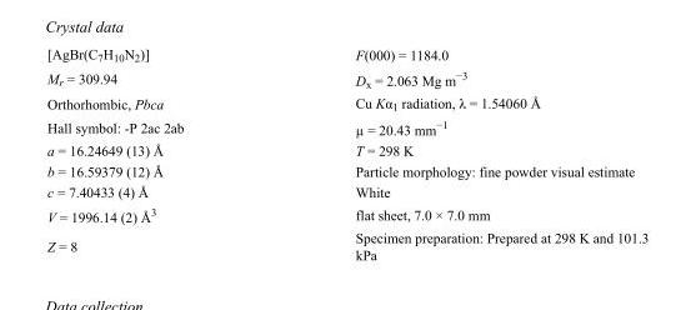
<table><tbody><tr><td>[AgBr(C<sub>7</sub>H<sub>10</sub>N<sub>2</sub>)]</td><td>F(000) = 1184.0</td></tr><tr><td>M<sub>r</sub> = 309.94</td><td>D<sub>x</sub> = 2.063 Mg m<sup>−3</sup></td></tr><tr><td>Orthorhombic, Pbca</td><td>Cu Kα<sub>1</sub> radiation, λ = 1.54060 Å</td></tr><tr><td>Hall symbol: -P 2ac 2ab</td><td>µ = 20.43 mm<sup>−1</sup></td></tr><tr><td>a = 16.24649 (13) Å</td><td>T = 298 K</td></tr><tr><td>b = 16.59379 (12) Å</td><td>Particle morphology: fine powder visual estimate</td></tr><tr><td>c = 7.40433 (4) Å</td><td>White</td></tr><tr><td>V = 1996.14 (2) Å<sup>3</sup></td><td>flat sheet, 7.0 × 7.0 mm</td></tr><tr><td>Z = 8</td><td>Specimen preparation: Prepared at 298 K and 101.3 kPa</td></tr></tbody></table>